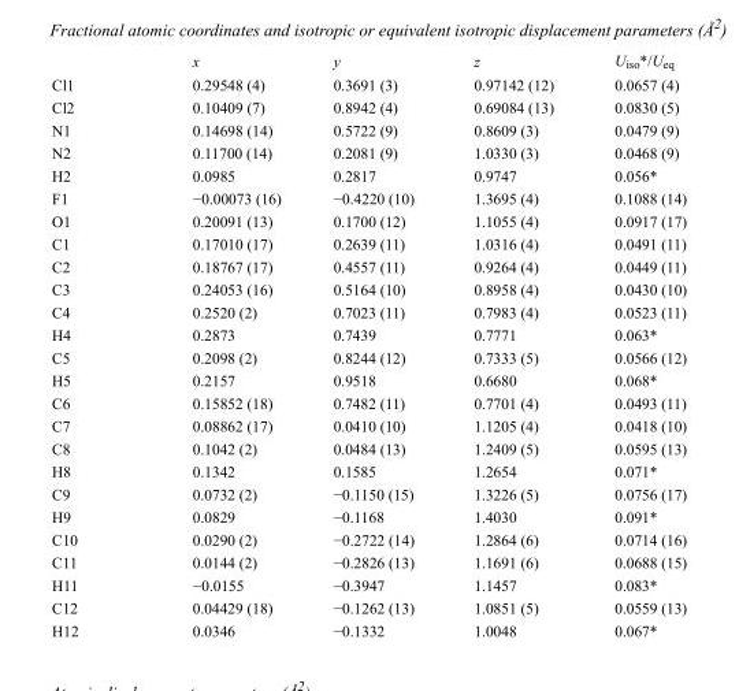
<table><thead><tr><td></td><td>x</td><td>y</td><td>z</td><td>U<sub>iso</sub>*/U<sub>eq</sub></td></tr></thead><tbody><tr><td>Cl1</td><td>0.29548 (4)</td><td>0.3691 (3)</td><td>0.97142 (12)</td><td>0.0657 (4)</td></tr><tr><td>Cl2</td><td>0.10409 (7)</td><td>0.8942 (4)</td><td>0.69084 (13)</td><td>0.0830 (5)</td></tr><tr><td>N1</td><td>0.14698 (14)</td><td>0.5722 (9)</td><td>0.8609 (3)</td><td>0.0479 (9)</td></tr><tr><td>N2</td><td>0.11700 (14)</td><td>0.2081 (9)</td><td>1.0330 (3)</td><td>0.0468 (9)</td></tr><tr><td>H2</td><td>0.0985</td><td>0.2817</td><td>0.9747</td><td>0.056*</td></tr><tr><td>F1</td><td>−0.00073 (16)</td><td>−0.4220 (10)</td><td>1.3695 (4)</td><td>0.1088 (14)</td></tr><tr><td>O1</td><td>0.20091 (13)</td><td>0.1700 (12)</td><td>1.1055 (4)</td><td>0.0917 (17)</td></tr><tr><td>C1</td><td>0.17010 (17)</td><td>0.2639 (11)</td><td>1.0316 (4)</td><td>0.0491 (11)</td></tr><tr><td>C2</td><td>0.18767 (17)</td><td>0.4557 (11)</td><td>0.9264 (4)</td><td>0.0449 (11)</td></tr><tr><td>C3</td><td>0.24053 (16)</td><td>0.5164 (10)</td><td>0.8958 (4)</td><td>0.0430 (10)</td></tr><tr><td>C4</td><td>0.2520 (2)</td><td>0.7023 (11)</td><td>0.7983 (4)</td><td>0.0523 (11)</td></tr><tr><td>H4</td><td>0.2873</td><td>0.7439</td><td>0.7771</td><td>0.063*</td></tr><tr><td>C5</td><td>0.2098 (2)</td><td>0.8244 (12)</td><td>0.7333 (5)</td><td>0.0566 (12)</td></tr><tr><td>H5</td><td>0.2157</td><td>0.9518</td><td>0.6680</td><td>0.068*</td></tr><tr><td>C6</td><td>0.15852 (18)</td><td>0.7482 (11)</td><td>0.7701 (4)</td><td>0.0493 (11)</td></tr><tr><td>C7</td><td>0.08862 (17)</td><td>0.0410 (10)</td><td>1.1205 (4)</td><td>0.0418 (10)</td></tr><tr><td>C8</td><td>0.1042 (2)</td><td>0.0484 (13)</td><td>1.2409 (5)</td><td>0.0595 (13)</td></tr><tr><td>H8</td><td>0.1342</td><td>0.1585</td><td>1.2654</td><td>0.071*</td></tr><tr><td>C9</td><td>0.0732 (2)</td><td>−0.1150 (15)</td><td>1.3226 (5)</td><td>0.0756 (17)</td></tr><tr><td>H9</td><td>0.0829</td><td>−0.1168</td><td>1.4030</td><td>0.091*</td></tr><tr><td>C10</td><td>0.0290 (2)</td><td>−0.2722 (14)</td><td>1.2864 (6)</td><td>0.0714 (16)</td></tr><tr><td>C11</td><td>0.0144 (2)</td><td>−0.2826 (13)</td><td>1.1691 (6)</td><td>0.0688 (15)</td></tr><tr><td>H11</td><td>−0.0155</td><td>−0.3947</td><td>1.1457</td><td>0.083*</td></tr><tr><td>C12</td><td>0.04429 (18)</td><td>−0.1262 (13)</td><td>1.0851 (5)</td><td>0.0559 (13)</td></tr><tr><td>H12</td><td>0.0346</td><td>−0.1332</td><td>1.0048</td><td>0.067*</td></tr></tbody></table>